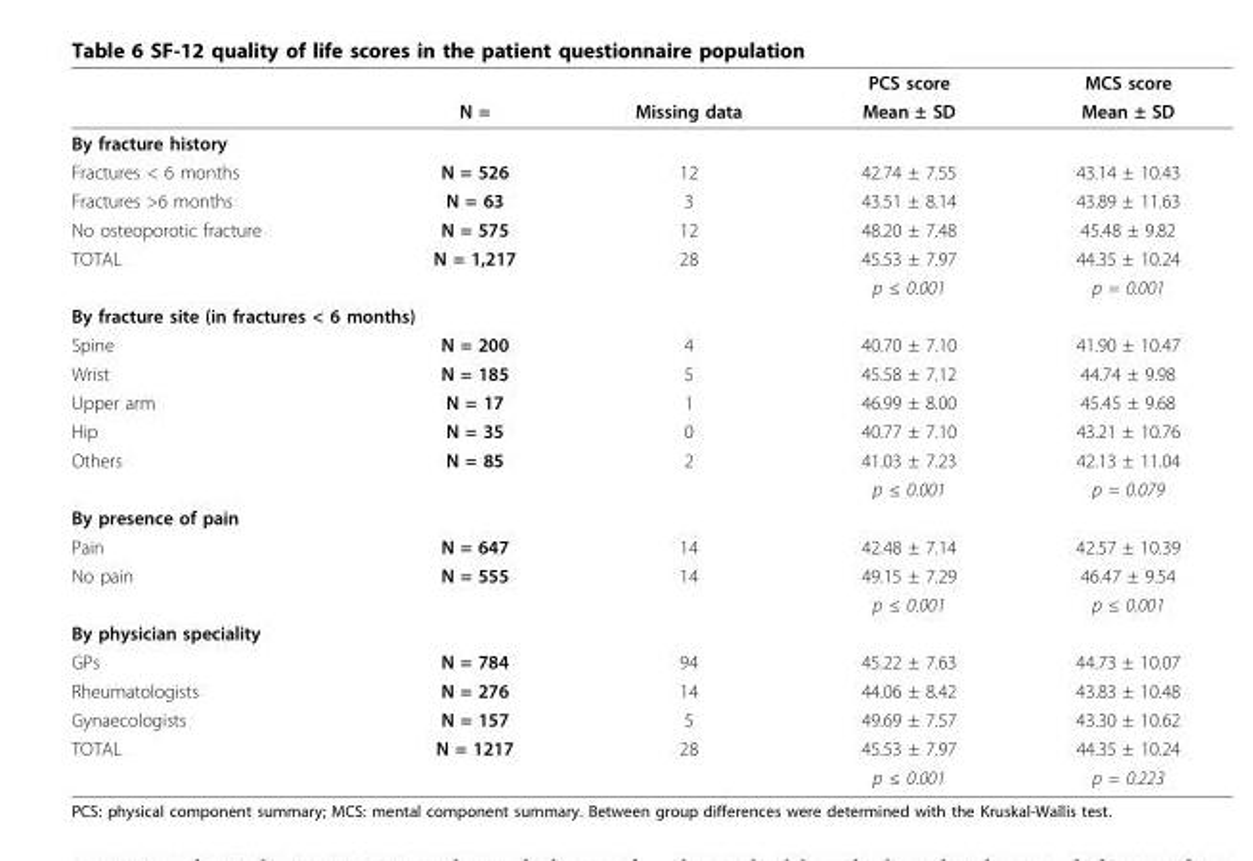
<table><thead><tr><td rowspan="2"></td><td rowspan="2">N =</td><td rowspan="2">Missing data</td><td rowspan="2">PCS score Mean ± SD</td><td rowspan="2">MCS score Mean ± SD</td></tr><tr></tr></thead><tbody><tr><td colspan="5">By fracture history</td></tr><tr><td>Fractures &lt; 6 months</td><td>N = 526</td><td>12</td><td>42.74 ± 7.55</td><td>43.14 ± 10.43</td></tr><tr><td>Fractures &gt;6 months</td><td>N = 63</td><td>3</td><td>43.51 ± 8.14</td><td>43.89 ± 11.63</td></tr><tr><td>No osteoporotic fracture</td><td>N = 575</td><td>12</td><td>48.20 ± 7.48</td><td>45.48 ± 9.82</td></tr><tr><td rowspan="2">TOTAL</td><td>N = 1,217</td><td>28</td><td>45.53 ± 7.97</td><td>44.35 ± 10.24</td></tr><tr><td></td><td></td><td>p ≤ 0.001</td><td>p = 0.001</td></tr><tr><td colspan="5">By fracture site (in fractures &lt; 6 months)</td></tr><tr><td>Spine</td><td>N = 200</td><td>4</td><td>40.70 ± 7.10</td><td>41.90 ± 10.47</td></tr><tr><td>Wrist</td><td>N = 185</td><td>5</td><td>45.58 ± 7.12</td><td>44.74 ± 9.98</td></tr><tr><td>Upper arm</td><td>N = 17</td><td>1</td><td>46.99 ± 8.00</td><td>45.45 ± 9.68</td></tr><tr><td>Hip</td><td>N = 35</td><td>0</td><td>40.77 ± 7.10</td><td>43.21 ± 10.76</td></tr><tr><td rowspan="2">Others</td><td>N = 85</td><td>2</td><td>41.03 ± 7.23</td><td>42.13 ± 11.04</td></tr><tr><td></td><td></td><td>p ≤ 0.001</td><td>p = 0.079</td></tr><tr><td colspan="5">By presence of pain</td></tr><tr><td>Pain</td><td>N = 647</td><td>14</td><td>42.48 ± 7.14</td><td>42.57 ± 10.39</td></tr><tr><td rowspan="2">No pain</td><td>N = 555</td><td>14</td><td>49.15 ± 7.29</td><td>46.47 ± 9.54</td></tr><tr><td></td><td></td><td>p ≤ 0.001</td><td>p ≤ 0.001</td></tr><tr><td colspan="5">By physician speciality</td></tr><tr><td>GPs</td><td>N = 784</td><td>94</td><td>45.22 ± 7.63</td><td>44.73 ± 10.07</td></tr><tr><td>Rheumatologists</td><td>N = 276</td><td>14</td><td>44.06 ± 8.42</td><td>43.83 ± 10.48</td></tr><tr><td>Gynaecologists</td><td>N = 157</td><td>5</td><td>49.69 ± 7.57</td><td>43.30 ± 10.62</td></tr><tr><td rowspan="2">TOTAL</td><td>N = 1217</td><td>28</td><td>45.53 ± 7.97</td><td>44.35 ± 10.24</td></tr><tr><td></td><td></td><td>p ≤ 0.001</td><td>p = 0.223</td></tr></tbody></table>